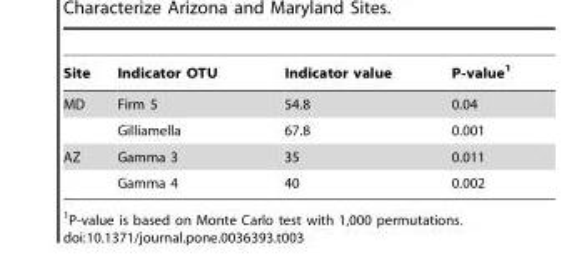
<table><thead><tr><td>Site</td><td>Indicator OTU</td><td>Indicator value</td><td>P-value<sup>1</sup></td></tr></thead><tbody><tr><td rowspan="2">MD</td><td>Firm 5</td><td>54.8</td><td>0.04</td></tr><tr><td>Gilliamella</td><td>67.8</td><td>0.001</td></tr><tr><td rowspan="2">AZ</td><td>Gamma 3</td><td>35</td><td>0.011</td></tr><tr><td>Gamma 4</td><td>40</td><td>0.002</td></tr></tbody></table>